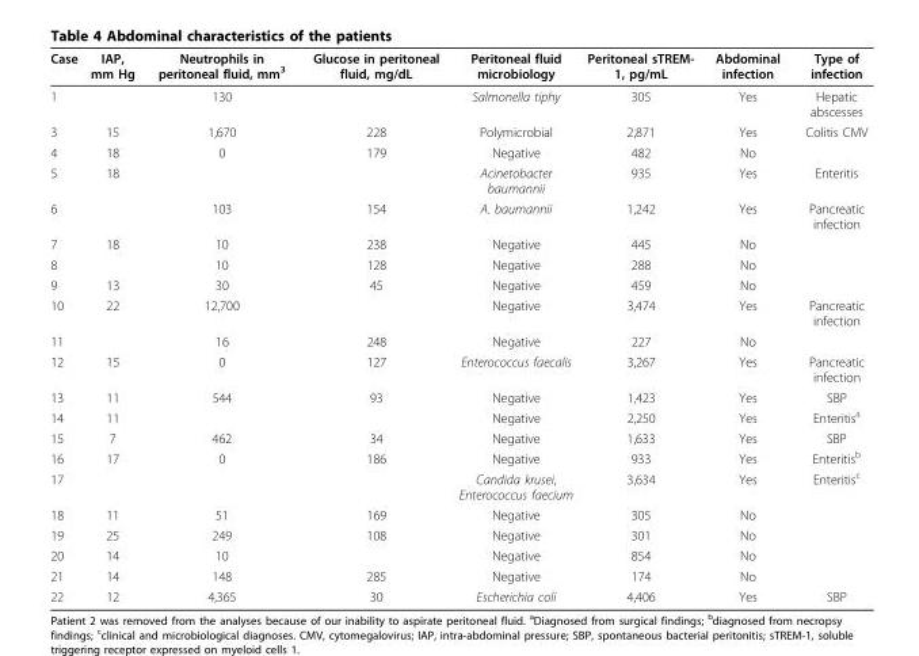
<table><thead><tr><td>Case</td><td>IAP, mm Hg</td><td>Neutrophils in peritoneal fluid, mm<sup>3</sup></td><td>Glucose in peritoneal fluid, mg/dL</td><td>Peritoneal fluid microbiology</td><td>Peritoneal sTREM- 1, pg/mL</td><td>Abdominal infection</td><td>Type of infection</td></tr></thead><tbody><tr><td>1</td><td></td><td>130</td><td></td><td>Salmonella tiphy</td><td>305</td><td>Yes</td><td>Hepatic abscesses</td></tr><tr><td>3</td><td>15</td><td>1,670</td><td>228</td><td>Polymicrobial</td><td>2,871</td><td>Yes</td><td>Colitis CMV</td></tr><tr><td>4</td><td>18</td><td>0</td><td>179</td><td>Negative</td><td>482</td><td>No</td><td></td></tr><tr><td>5</td><td>18</td><td></td><td></td><td>Acinetobacter baumannii</td><td>935</td><td>Yes</td><td>Enteritis</td></tr><tr><td>6</td><td></td><td>103</td><td>154</td><td>A. baumannii</td><td>1,242</td><td>Yes</td><td>Pancreatic infection</td></tr><tr><td>7</td><td>18</td><td>10</td><td>238</td><td>Negative</td><td>445</td><td>No</td><td></td></tr><tr><td>8</td><td></td><td>10</td><td>128</td><td>Negative</td><td>288</td><td>No</td><td></td></tr><tr><td>9</td><td>13</td><td>30</td><td>45</td><td>Negative</td><td>459</td><td>No</td><td></td></tr><tr><td>10</td><td>22</td><td>12,700</td><td></td><td>Negative</td><td>3,474</td><td>Yes</td><td>Pancreatic infection</td></tr><tr><td>11</td><td></td><td>16</td><td>248</td><td>Negative</td><td>227</td><td>No</td><td></td></tr><tr><td>12</td><td>15</td><td>0</td><td>127</td><td>Enterococcus faecalis</td><td>3,267</td><td>Yes</td><td>Pancreatic infection</td></tr><tr><td>13</td><td>11</td><td>544</td><td>93</td><td>Negative</td><td>1,423</td><td>Yes</td><td>SBP</td></tr><tr><td>14</td><td>11</td><td></td><td></td><td>Negative</td><td>2,250</td><td>Yes</td><td>Enteritis<sup>a</sup></td></tr><tr><td>15</td><td>7</td><td>462</td><td>34</td><td>Negative</td><td>1,633</td><td>Yes</td><td>SBP</td></tr><tr><td>16</td><td>17</td><td>0</td><td>186</td><td>Negative</td><td>933</td><td>Yes</td><td>Enteritis<sup>b</sup></td></tr><tr><td>17</td><td></td><td></td><td></td><td>Candida krusei, Enterococcus faecium</td><td>3,634</td><td>Yes</td><td>Enteritis<sup>c</sup></td></tr><tr><td>18</td><td>11</td><td>51</td><td>169</td><td>Negative</td><td>305</td><td>No</td><td></td></tr><tr><td>19</td><td>25</td><td>249</td><td>108</td><td>Negative</td><td>301</td><td>No</td><td></td></tr><tr><td>20</td><td>14</td><td>10</td><td></td><td>Negative</td><td>854</td><td>No</td><td></td></tr><tr><td>21</td><td>14</td><td>148</td><td>285</td><td>Negative</td><td>174</td><td>No</td><td></td></tr><tr><td>22</td><td>12</td><td>4,365</td><td>30</td><td>Escherichia coli</td><td>4,406</td><td>Yes</td><td>SBP</td></tr></tbody></table>